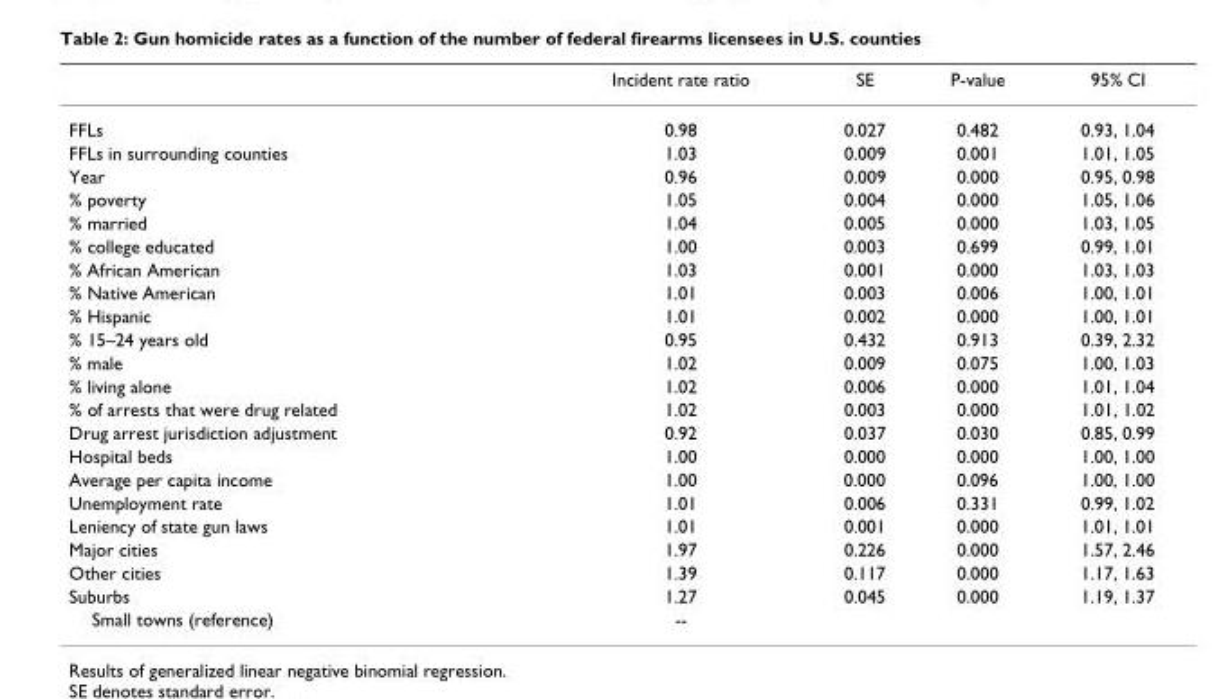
<table><thead><tr><td></td><td>Incident rate ratio</td><td>SE</td><td>P-value</td><td>95% CI</td></tr></thead><tbody><tr><td>FFLs</td><td>0.98</td><td>0.027</td><td>0.482</td><td>0.93, 1.04</td></tr><tr><td>FFLs in surrounding counties</td><td>1.03</td><td>0.009</td><td>0.001</td><td>1.01, 1.05</td></tr><tr><td>Year</td><td>0.96</td><td>0.009</td><td>0.000</td><td>0.95, 0.98</td></tr><tr><td>% poverty</td><td>1.05</td><td>0.004</td><td>0.000</td><td>1.05, 1.06</td></tr><tr><td>% married</td><td>1.04</td><td>0.005</td><td>0.000</td><td>1.03, 1.05</td></tr><tr><td>% college educated</td><td>1.00</td><td>0.003</td><td>0.699</td><td>0.99, 1.01</td></tr><tr><td>% African American</td><td>1.03</td><td>0.001</td><td>0.000</td><td>1.03, 1.03</td></tr><tr><td>% Native American</td><td>1.01</td><td>0.003</td><td>0.006</td><td>1.00, 1.01</td></tr><tr><td>% Hispanic</td><td>1.01</td><td>0.002</td><td>0.000</td><td>1.00, 1.01</td></tr><tr><td>% 15–24 years old</td><td>0.95</td><td>0.432</td><td>0.913</td><td>0.39, 2.32</td></tr><tr><td>% male</td><td>1.02</td><td>0.009</td><td>0.075</td><td>1.00, 1.03</td></tr><tr><td>% living alone</td><td>1.02</td><td>0.006</td><td>0.000</td><td>1.01, 1.04</td></tr><tr><td>% of arrests that were drug related</td><td>1.02</td><td>0.003</td><td>0.000</td><td>1.01, 1.02</td></tr><tr><td>Drug arrest jurisdiction adjustment</td><td>0.92</td><td>0.037</td><td>0.030</td><td>0.85, 0.99</td></tr><tr><td>Hospital beds</td><td>1.00</td><td>0.000</td><td>0.000</td><td>1.00, 1.00</td></tr><tr><td>Average per capita income</td><td>1.00</td><td>0.000</td><td>0.096</td><td>1.00, 1.00</td></tr><tr><td>Unemployment rate</td><td>1.01</td><td>0.006</td><td>0.331</td><td>0.99, 1.02</td></tr><tr><td>Leniency of state gun laws</td><td>1.01</td><td>0.001</td><td>0.000</td><td>1.01, 1.01</td></tr><tr><td>Major cities</td><td>1.97</td><td>0.226</td><td>0.000</td><td>1.57, 2.46</td></tr><tr><td>Other cities</td><td>1.39</td><td>0.117</td><td>0.000</td><td>1.17, 1.63</td></tr><tr><td>Suburbs</td><td>1.27</td><td>0.045</td><td>0.000</td><td>1.19, 1.37</td></tr><tr><td>Small towns (reference)</td><td>--</td><td></td><td></td><td></td></tr></tbody></table>